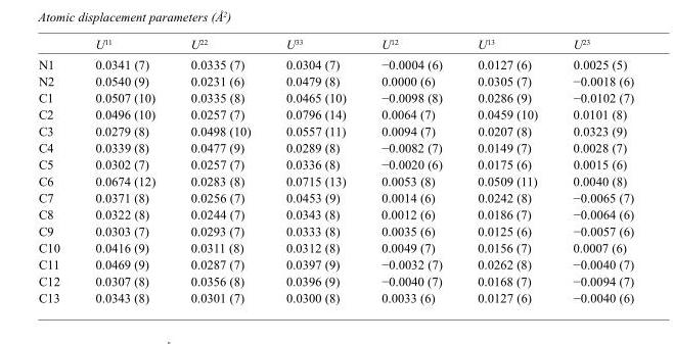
<table><thead><tr><td></td><td>U<sup>11</sup></td><td>U<sup>22</sup></td><td>U<sup>33</sup></td><td>U<sup>12</sup></td><td>U<sup>13</sup></td><td>U<sup>23</sup></td></tr></thead><tbody><tr><td>N1</td><td>0.0341 (7)</td><td>0.0335 (7)</td><td>0.0304 (7)</td><td>−0.0004 (6)</td><td>0.0127 (6)</td><td>0.0025 (5)</td></tr><tr><td>N2</td><td>0.0540 (9)</td><td>0.0231 (6)</td><td>0.0479 (8)</td><td>0.0000 (6)</td><td>0.0305 (7)</td><td>−0.0018 (6)</td></tr><tr><td>C1</td><td>0.0507 (10)</td><td>0.0335 (8)</td><td>0.0465 (10)</td><td>−0.0098 (8)</td><td>0.0286 (9)</td><td>−0.0102 (7)</td></tr><tr><td>C2</td><td>0.0496 (10)</td><td>0.0257 (7)</td><td>0.0796 (14)</td><td>0.0064 (7)</td><td>0.0459 (10)</td><td>0.0101 (8)</td></tr><tr><td>C3</td><td>0.0279 (8)</td><td>0.0498 (10)</td><td>0.0557 (11)</td><td>0.0094 (7)</td><td>0.0207 (8)</td><td>0.0323 (9)</td></tr><tr><td>C4</td><td>0.0339 (8)</td><td>0.0477 (9)</td><td>0.0289 (8)</td><td>−0.0082 (7)</td><td>0.0149 (7)</td><td>0.0028 (7)</td></tr><tr><td>C5</td><td>0.0302 (7)</td><td>0.0257 (7)</td><td>0.0336 (8)</td><td>−0.0020 (6)</td><td>0.0175 (6)</td><td>0.0015 (6)</td></tr><tr><td>C6</td><td>0.0674 (12)</td><td>0.0283 (8)</td><td>0.0715 (13)</td><td>0.0053 (8)</td><td>0.0509 (11)</td><td>0.0040 (8)</td></tr><tr><td>C7</td><td>0.0371 (8)</td><td>0.0256 (7)</td><td>0.0453 (9)</td><td>0.0014 (6)</td><td>0.0242 (8)</td><td>−0.0065 (7)</td></tr><tr><td>C8</td><td>0.0322 (8)</td><td>0.0244 (7)</td><td>0.0343 (8)</td><td>0.0012 (6)</td><td>0.0186 (7)</td><td>−0.0064 (6)</td></tr><tr><td>C9</td><td>0.0303 (7)</td><td>0.0293 (7)</td><td>0.0333 (8)</td><td>0.0035 (6)</td><td>0.0125 (6)</td><td>−0.0057 (6)</td></tr><tr><td>C10</td><td>0.0416 (9)</td><td>0.0311 (8)</td><td>0.0312 (8)</td><td>0.0049 (7)</td><td>0.0156 (7)</td><td>0.0007 (6)</td></tr><tr><td>C11</td><td>0.0469 (9)</td><td>0.0287 (7)</td><td>0.0397 (9)</td><td>−0.0032 (7)</td><td>0.0262 (8)</td><td>−0.0040 (7)</td></tr><tr><td>C12</td><td>0.0307 (8)</td><td>0.0356 (8)</td><td>0.0396 (9)</td><td>−0.0040 (7)</td><td>0.0168 (7)</td><td>−0.0094 (7)</td></tr><tr><td>C13</td><td>0.0343 (8)</td><td>0.0301 (7)</td><td>0.0300 (8)</td><td>0.0033 (6)</td><td>0.0127 (6)</td><td>−0.0040 (6)</td></tr></tbody></table>